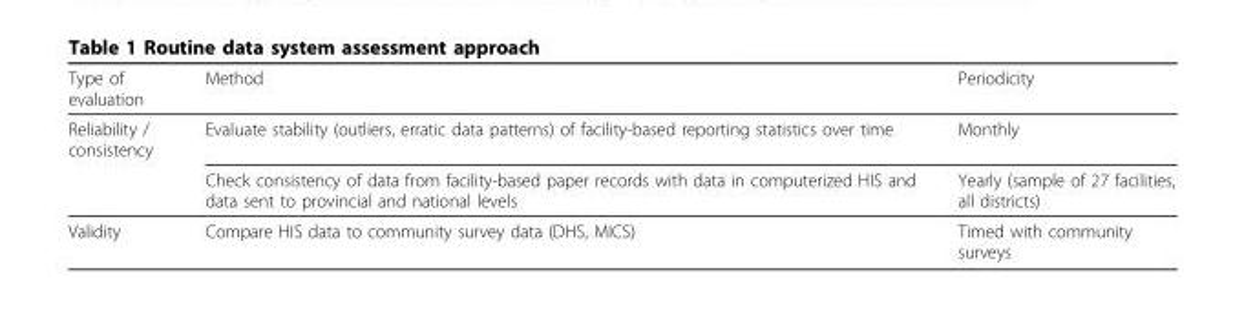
<table><thead><tr><td>Type of evaluation</td><td>Method</td><td>Periodicity</td></tr></thead><tbody><tr><td rowspan="2">Reliability / consistency</td><td>Evaluate stability (outliers, erratic data patterns) of facility-based reporting statistics over time</td><td>Monthly</td></tr><tr><td>Check consistency of data from facility-based paper records with data in computerized HIS and data sent to provincial and national levels</td><td>Yearly (sample of 27 facilities, all districts)</td></tr><tr><td>Validity</td><td>Compare HIS data to community survey data (DHS, MICS)</td><td>Timed with community surveys</td></tr></tbody></table>